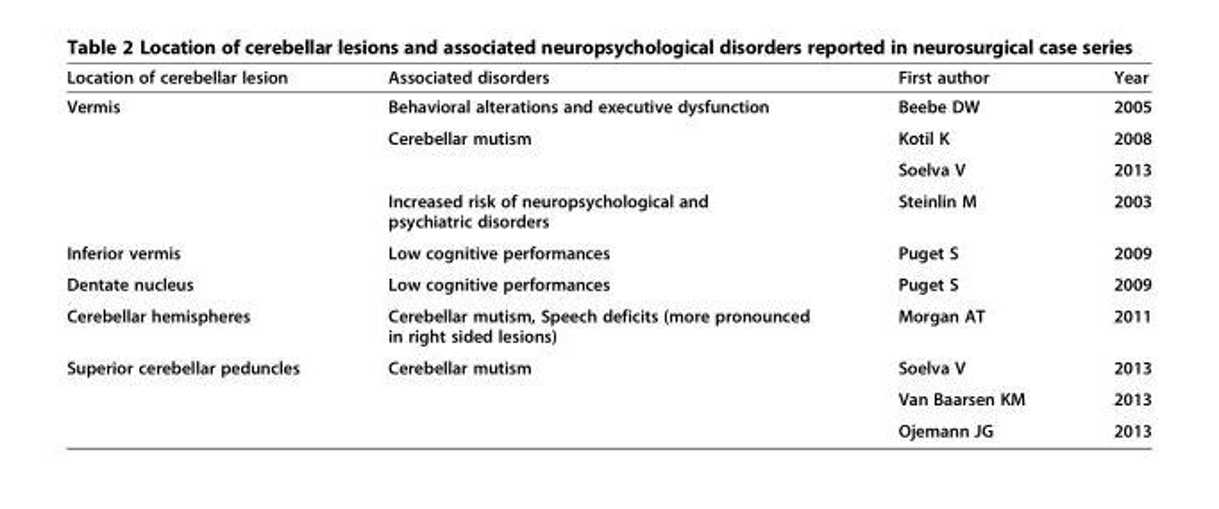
<table><thead><tr><td>Location of cerebellar lesion</td><td>Associated disorders</td><td>First author</td><td>Year</td></tr></thead><tbody><tr><td rowspan="4">Vermis</td><td>Behavioral alterations and executive dysfunction</td><td>Beebe DW</td><td>2005</td></tr><tr><td rowspan="2">Cerebellar mutism</td><td>Kotil K</td><td>2008</td></tr><tr><td>Soelva V</td><td>2013</td></tr><tr><td>Increased risk of neuropsychological and psychiatric disorders</td><td>Steinlin M</td><td>2003</td></tr><tr><td>Inferior vermis</td><td>Low cognitive performances</td><td>Puget S</td><td>2009</td></tr><tr><td>Dentate nucleus</td><td>Low cognitive performances</td><td>Puget S</td><td>2009</td></tr><tr><td>Cerebellar hemispheres</td><td>Cerebellar mutism, Speech deficits (more pronounced in right sided lesions)</td><td>Morgan AT</td><td>2011</td></tr><tr><td rowspan="3">Superior cerebellar peduncles</td><td>Cerebellar mutism</td><td>Soelva V</td><td>2013</td></tr><tr><td></td><td>Van Baarsen KM</td><td>2013</td></tr><tr><td></td><td>Ojemann JG</td><td>2013</td></tr></tbody></table>